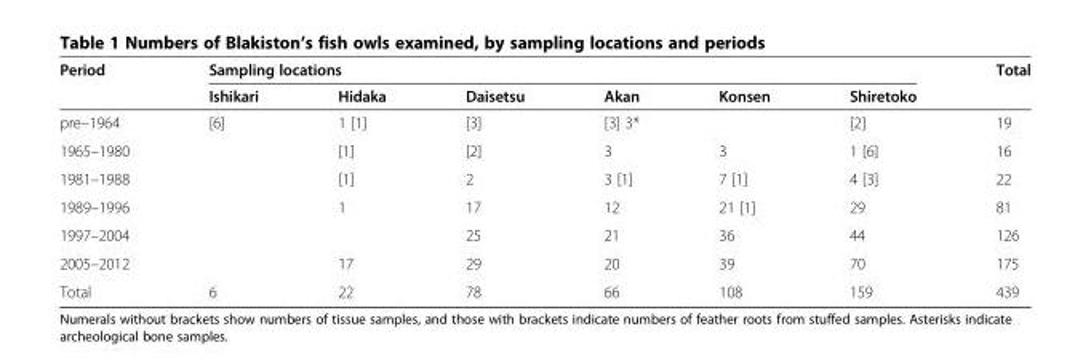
<table><thead><tr><td rowspan="2">Period</td><td colspan="6">Sampling locations</td><td rowspan="2">Total</td></tr><tr><td>Ishikari</td><td>Hidaka</td><td>Daisetsu</td><td>Akan</td><td>Konsen</td><td>Shiretoko</td></tr></thead><tbody><tr><td>pre–1964</td><td>[6]</td><td>1 [1]</td><td>[3]</td><td>[3] 3*</td><td></td><td>[2]</td><td>19</td></tr><tr><td>1965–1980</td><td></td><td>[1]</td><td>[2]</td><td>3</td><td>3</td><td>1 [6]</td><td>16</td></tr><tr><td>1981–1988</td><td></td><td>[1]</td><td>2</td><td>3 [1]</td><td>7 [1]</td><td>4 [3]</td><td>22</td></tr><tr><td>1989–1996</td><td></td><td>1</td><td>17</td><td>12</td><td>21 [1]</td><td>29</td><td>81</td></tr><tr><td>1997–2004</td><td></td><td></td><td>25</td><td>21</td><td>36</td><td>44</td><td>126</td></tr><tr><td>2005–2012</td><td></td><td>17</td><td>29</td><td>20</td><td>39</td><td>70</td><td>175</td></tr><tr><td>Total</td><td>6</td><td>22</td><td>78</td><td>66</td><td>108</td><td>159</td><td>439</td></tr></tbody></table>